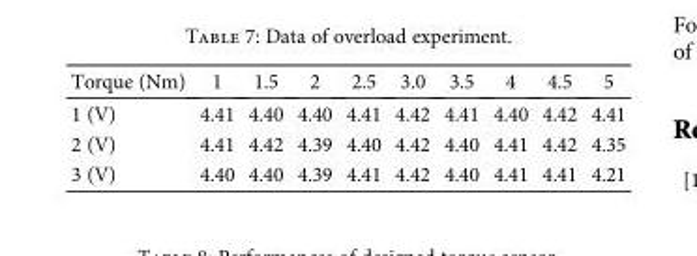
<table><thead><tr><td>Torque (Nm)</td><td>1</td><td>1.5</td><td>2</td><td>2.5</td><td>3.0</td><td>3.5</td><td>4</td><td>4.5</td><td>5</td></tr></thead><tbody><tr><td>1 (V)</td><td>4.41</td><td>4.40</td><td>4.40</td><td>4.41</td><td>4.42</td><td>4.41</td><td>4.40</td><td>4.42</td><td>4.41</td></tr><tr><td>2 (V)</td><td>4.41</td><td>4.42</td><td>4.39</td><td>4.40</td><td>4.42</td><td>4.40</td><td>4.41</td><td>4.42</td><td>4.35</td></tr><tr><td>3 (V)</td><td>4.40</td><td>4.40</td><td>4.39</td><td>4.41</td><td>4.42</td><td>4.40</td><td>4.41</td><td>4.41</td><td>4.21</td></tr></tbody></table>